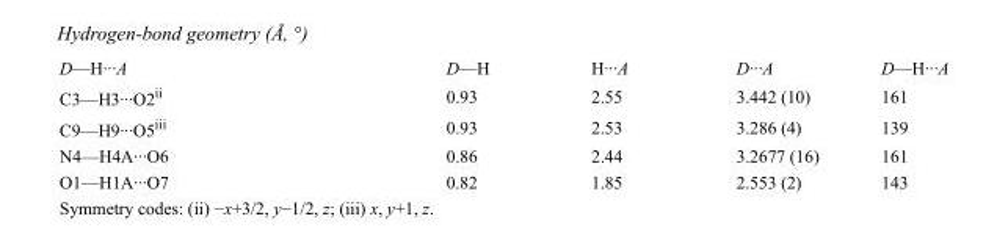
<table><tbody><tr><td>D—H···A</td><td>D—H</td><td>H···A</td><td>D···A</td><td>D—H···A</td></tr><tr><td>C3—H3···O2<sup>ii</sup></td><td>0.93</td><td>2.55</td><td>3.442 (10)</td><td>161</td></tr><tr><td>C9—H9···O5<sup>iii</sup></td><td>0.93</td><td>2.53</td><td>3.286 (4)</td><td>139</td></tr><tr><td>N4—H4A···O6</td><td>0.86</td><td>2.44</td><td>3.2677 (16)</td><td>161</td></tr><tr><td>O1—H1A···O7</td><td>0.82</td><td>1.85</td><td>2.553 (2)</td><td>143</td></tr></tbody></table>